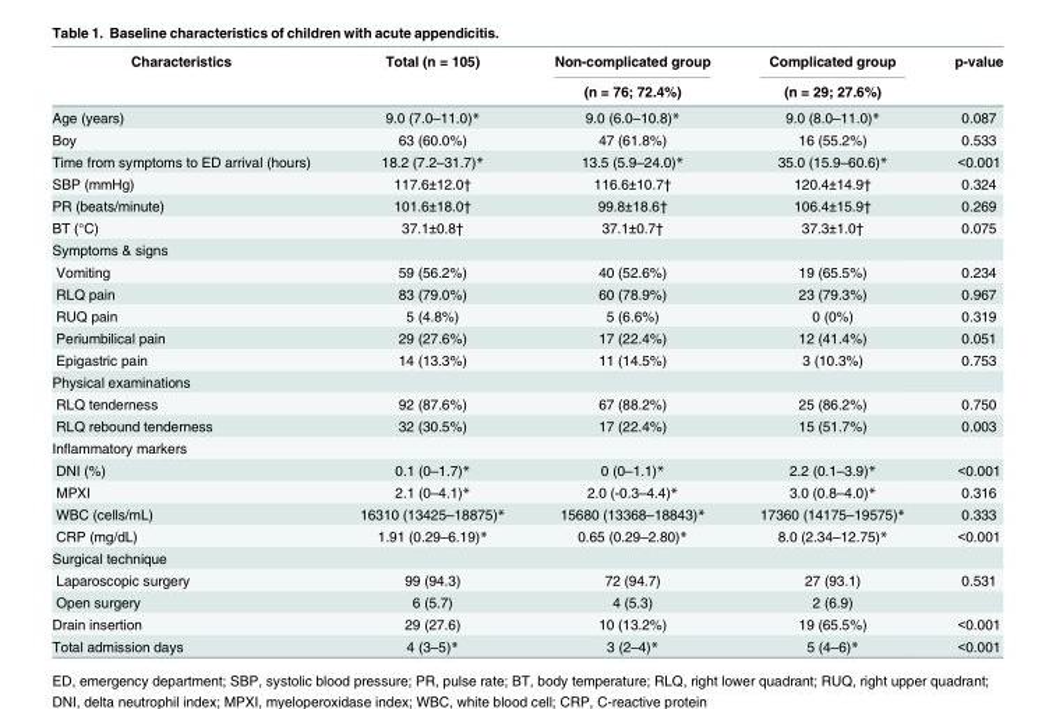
<table><thead><tr><td rowspan="2">Characteristics</td><td rowspan="2">Total (n = 105)</td><td rowspan="2">Non-complicated group (n = 76; 72.4%)</td><td rowspan="2">Complicated group (n = 29; 27.6%)</td><td rowspan="2">p-value</td></tr><tr></tr></thead><tbody><tr><td>Age (years)</td><td>9.0 (7.0–11.0)*</td><td>9.0 (6.0–10.8)*</td><td>9.0 (8.0–11.0)*</td><td>0.087</td></tr><tr><td>Boy</td><td>63 (60.0%)</td><td>47 (61.8%)</td><td>16 (55.2%)</td><td>0.533</td></tr><tr><td>Time from symptoms to ED arrival (hours)</td><td>18.2 (7.2–31.7)*</td><td>13.5 (5.9–24.0)*</td><td>35.0 (15.9–60.6)*</td><td>&lt;0.001</td></tr><tr><td>SBP (mmHg)</td><td>117.6±12.0†</td><td>116.6±10.7†</td><td>120.4±14.9†</td><td>0.324</td></tr><tr><td>PR (beats/minute)</td><td>101.6±18.0†</td><td>99.8±18.6†</td><td>106.4±15.9†</td><td>0.269</td></tr><tr><td>BT (°C)</td><td>37.1±0.8†</td><td>37.1±0.7†</td><td>37.3±1.0†</td><td>0.075</td></tr><tr><td colspan="5">Symptoms &amp; signs</td></tr><tr><td>Vomiting</td><td>59 (56.2%)</td><td>40 (52.6%)</td><td>19 (65.5%)</td><td>0.234</td></tr><tr><td>RLQ pain</td><td>83 (79.0%)</td><td>60 (78.9%)</td><td>23 (79.3%)</td><td>0.967</td></tr><tr><td>RUQ pain</td><td>5 (4.8%)</td><td>5 (6.6%)</td><td>0 (0%)</td><td>0.319</td></tr><tr><td>Periumbilical pain</td><td>29 (27.6%)</td><td>17 (22.4%)</td><td>12 (41.4%)</td><td>0.051</td></tr><tr><td>Epigastric pain</td><td>14 (13.3%)</td><td>11 (14.5%)</td><td>3 (10.3%)</td><td>0.753</td></tr><tr><td colspan="5">Physical examinations</td></tr><tr><td>RLQ tenderness</td><td>92 (87.6%)</td><td>67 (88.2%)</td><td>25 (86.2%)</td><td>0.750</td></tr><tr><td>RLQ rebound tenderness</td><td>32 (30.5%)</td><td>17 (22.4%)</td><td>15 (51.7%)</td><td>0.003</td></tr><tr><td colspan="5">Inflammatory markers</td></tr><tr><td>DNI (%)</td><td>0.1 (0–1.7)*</td><td>0 (0–1.1)*</td><td>2.2 (0.1–3.9)*</td><td>&lt;0.001</td></tr><tr><td>MPXI</td><td>2.1 (0–4.1)*</td><td>2.0 (-0.3–4.4)*</td><td>3.0 (0.8–4.0)*</td><td>0.316</td></tr><tr><td>WBC (cells/mL)</td><td>16310 (13425–18875)*</td><td>15680 (13368–18843)*</td><td>17360 (14175–19575)*</td><td>0.333</td></tr><tr><td>CRP (mg/dL)</td><td>1.91 (0.29–6.19)*</td><td>0.65 (0.29–2.80)*</td><td>8.0 (2.34–12.75)*</td><td>&lt;0.001</td></tr><tr><td colspan="5">Surgical technique</td></tr><tr><td>Laparoscopic surgery</td><td>99 (94.3)</td><td>72 (94.7)</td><td>27 (93.1)</td><td>0.531</td></tr><tr><td>Open surgery</td><td>6 (5.7)</td><td>4 (5.3)</td><td>2 (6.9)</td><td></td></tr><tr><td>Drain insertion</td><td>29 (27.6)</td><td>10 (13.2%)</td><td>19 (65.5%)</td><td>&lt;0.001</td></tr><tr><td>Total admission days</td><td>4 (3–5)*</td><td>3 (2–4)*</td><td>5 (4–6)*</td><td>&lt;0.001</td></tr></tbody></table>